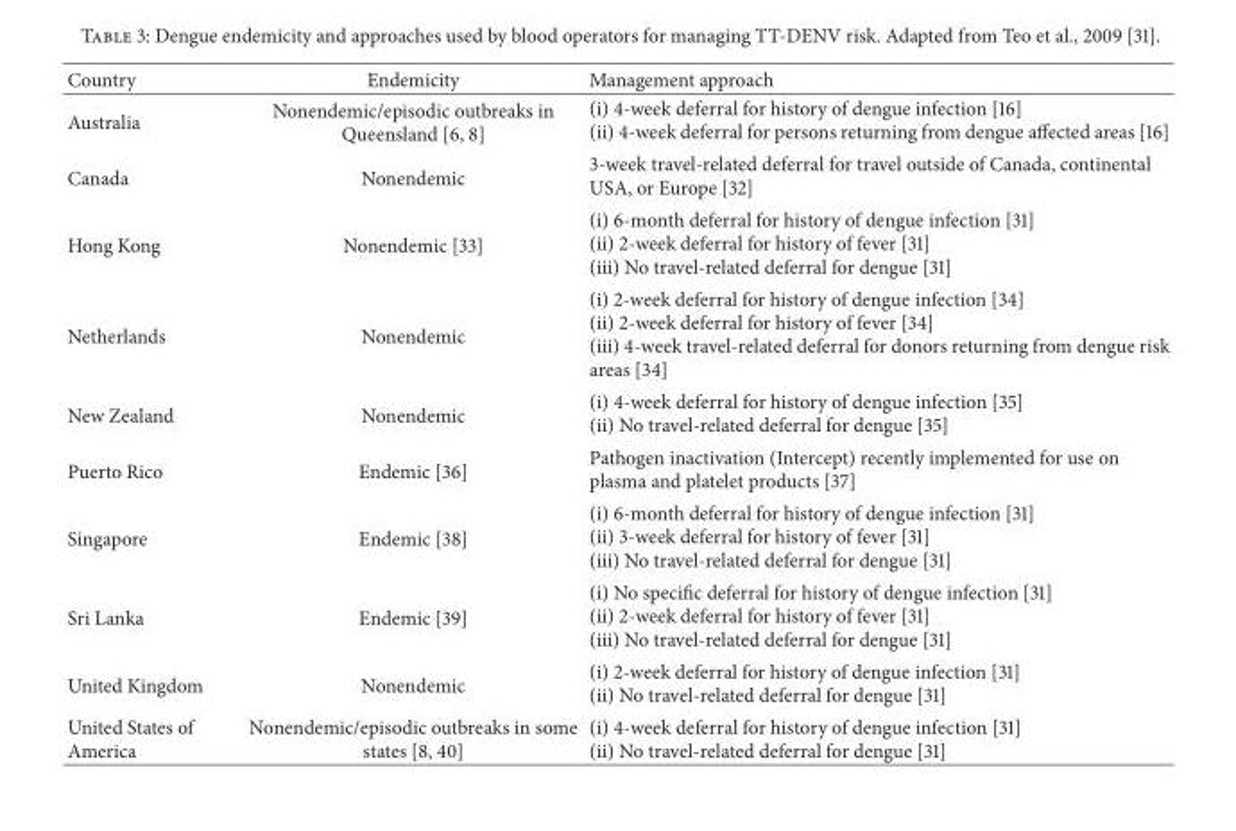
<table><thead><tr><td>Country</td><td>Endemicity</td><td>Management approach</td></tr></thead><tbody><tr><td>Australia</td><td>Nonendemic/episodic outbreaks in Queensland [6, 8]</td><td>(i) 4-week deferral for history of dengue infection [16] (ii) 4-week deferral for persons returning from dengue affected areas [16]</td></tr><tr><td>Canada</td><td>Nonendemic</td><td>3-week travel-related deferral for travel outside of Canada, continental USA, or Europe [32]</td></tr><tr><td>Hong Kong</td><td>Nonendemic [33]</td><td>(i) 6-month deferral for history of dengue infection [31] (ii) 2-week deferral for history of fever [31] (iii) No travel-related deferral for dengue [31]</td></tr><tr><td>Netherlands</td><td>Nonendemic</td><td>(i) 2-week deferral for history of dengue infection [34] (ii) 2-week deferral for history of fever [34] (iii) 4-week travel-related deferral for donors returning from dengue risk areas [34]</td></tr><tr><td>New Zealand</td><td>Nonendemic</td><td>(i) 4-week deferral for history of dengue infection [35] (ii) No travel-related deferral for dengue [35]</td></tr><tr><td>Puerto Rico</td><td>Endemic [36]</td><td>Pathogen inactivation (Intercept) recently implemented for use on plasma and platelet products [37]</td></tr><tr><td>Singapore</td><td>Endemic [38]</td><td>(i) 6-month deferral for history of dengue infection [31] (ii) 3-week deferral for history of fever [31] (iii) No travel-related deferral for dengue [31]</td></tr><tr><td>Sri Lanka</td><td>Endemic [39]</td><td>(i) No specific deferral for history of dengue infection [31] (ii) 2-week deferral for history of fever [31] (iii) No travel-related deferral for dengue [31]</td></tr><tr><td>United Kingdom</td><td>Nonendemic</td><td>(i) 2-week deferral for history of dengue infection [31] (ii) No travel-related deferral for dengue [31]</td></tr><tr><td>United States of America</td><td>Nonendemic/episodic outbreaks in some states [8, 40]</td><td>(i) 4-week deferral for history of dengue infection [31] (ii) No travel-related deferral for dengue [31]</td></tr></tbody></table>